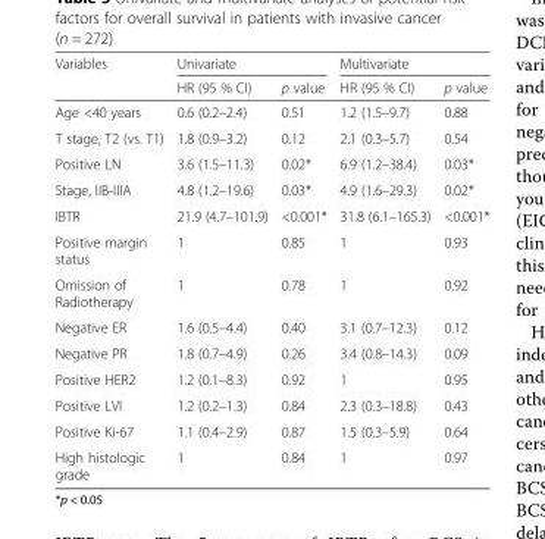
<table><thead><tr><td rowspan="2">Variables</td><td colspan="2">Univariate</td><td colspan="2">Multivariate</td></tr><tr><td>HR (95 % CI)</td><td>p value</td><td>HR (95 % CI)</td><td>p value</td></tr></thead><tbody><tr><td>Age &lt;40 years</td><td>0.6 (0.2–2.4)</td><td>0.51</td><td>1.2 (1.5–9.7)</td><td>0.88</td></tr><tr><td>T stage, T2 (vs. T1)</td><td>1.8 (0.9–3.2)</td><td>0.12</td><td>2.1 (0.3–5.7)</td><td>0.54</td></tr><tr><td>Positive LN</td><td>3.6 (1.5–11.3)</td><td>0.02*</td><td>6.9 (1.2–38.4)</td><td>0.03*</td></tr><tr><td>Stage, IIB-IIIA</td><td>4.8 (1.2–19.6)</td><td>0.03*</td><td>4.9 (1.6–29.3)</td><td>0.02*</td></tr><tr><td>IBTR</td><td>21.9 (4.7–101.9)</td><td>&lt;0.001*</td><td>31.8 (6.1–165.3)</td><td>&lt;0.001*</td></tr><tr><td>Positive margin status</td><td>1</td><td>0.85</td><td>1</td><td>0.93</td></tr><tr><td>Omission of Radiotherapy</td><td>1</td><td>0.78</td><td>1</td><td>0.92</td></tr><tr><td>Negative ER</td><td>1.6 (0.5–4.4)</td><td>0.40</td><td>3.1 (0.7–12.3)</td><td>0.12</td></tr><tr><td>Negative PR</td><td>1.8 (0.7–4.9)</td><td>0.26</td><td>3.4 (0.8–14.3)</td><td>0.09</td></tr><tr><td>Positive HER2</td><td>1.2 (0.1–8.3)</td><td>0.92</td><td>1</td><td>0.95</td></tr><tr><td>Positive LVI</td><td>1.2 (0.2–1.3)</td><td>0.84</td><td>2.3 (0.3–18.8)</td><td>0.43</td></tr><tr><td>Positive Ki-67</td><td>1.1 (0.4–2.9)</td><td>0.87</td><td>1.5 (0.3–5.9)</td><td>0.64</td></tr><tr><td>High histologic grade</td><td>1</td><td>0.84</td><td>1</td><td>0.97</td></tr></tbody></table>